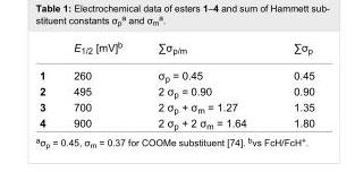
<table><thead><tr><td></td><td>E<sub>1/2</sub> [mV]<sup>b</sup></td><td>∑σ<sub>p/m</sub></td><td>∑σ<sub>p</sub></td></tr></thead><tbody><tr><td>1</td><td>260</td><td>σ<sub>p</sub> = 0.45</td><td>0.45</td></tr><tr><td>2</td><td>495</td><td>2 σ<sub>p</sub> = 0.90</td><td>0.90</td></tr><tr><td>3</td><td>700</td><td>2 σ<sub>p</sub> + σ<sub>m</sub> = 1.27</td><td>1.35</td></tr><tr><td>4</td><td>900</td><td>2 σ<sub>p</sub> + 2 σ<sub>m</sub> = 1.64</td><td>1.80</td></tr></tbody></table>